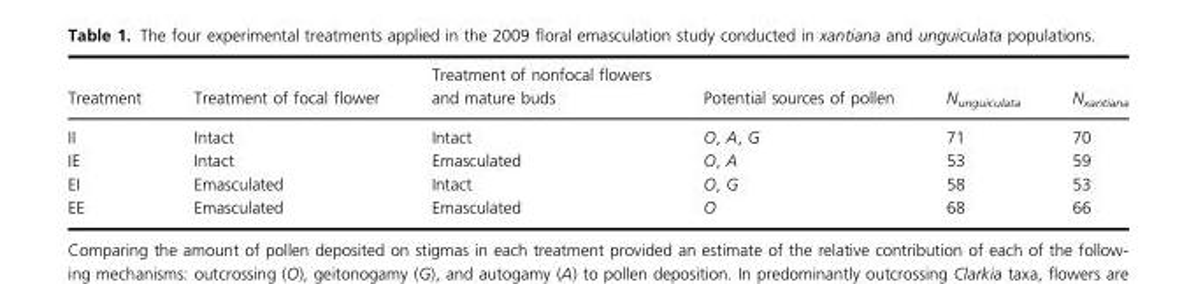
<table><thead><tr><td>Treatment</td><td>Treatment of focal flower</td><td>Treatment of nonfocal flowers and mature buds</td><td>Potential sources of pollen</td><td>N<sub>unguiculata</sub></td><td>N<sub>xantiana</sub></td></tr></thead><tbody><tr><td>II</td><td>Intact</td><td>Intact</td><td>O, A, G</td><td>71</td><td>70</td></tr><tr><td>IE</td><td>Intact</td><td>Emasculated</td><td>O, A</td><td>53</td><td>59</td></tr><tr><td>EI</td><td>Emasculated</td><td>Intact</td><td>O, G</td><td>58</td><td>53</td></tr><tr><td>EE</td><td>Emasculated</td><td>Emasculated</td><td>O</td><td>68</td><td>66</td></tr></tbody></table>